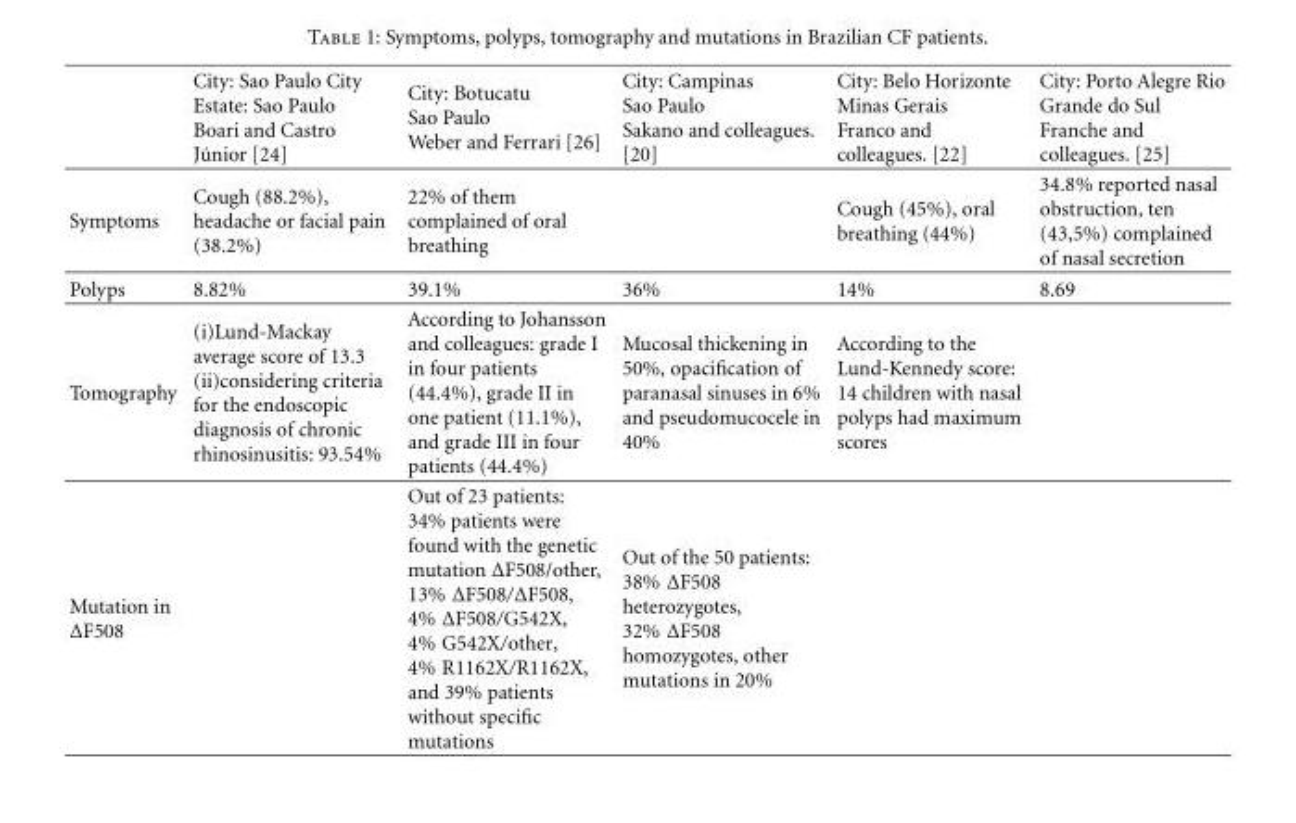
<table><thead><tr><td></td><td>City: Sao Paulo City Estate: Sao Paulo Boari and Castro J´unior [24]</td><td>City: Botucatu Sao Paulo Weber and Ferrari [26]</td><td>City: Campinas Sao Paulo Sakano and colleagues. [20]</td><td>City: Belo Horizonte Minas Gerais Franco and colleagues. [22]</td><td>City: Porto Alegre Rio Grande do Sul Franche and colleagues. [25]</td></tr></thead><tbody><tr><td>Symptoms</td><td>Cough (88.2%), headache or facial pain (38.2%)</td><td>22% of them complained of oral breathing</td><td></td><td>Cough (45%), oral breathing (44%)</td><td>34.8% reported nasal obstruction, ten (43,5%) complained of nasal secretion</td></tr><tr><td>Polyps</td><td>8.82%</td><td>39.1%</td><td>36%</td><td>14%</td><td>8.69</td></tr><tr><td>Tomography</td><td>(i)Lund-Mackay average score of 13.3 (ii)considering criteria for the endoscopic diagnosis of chronic rhinosinusitis: 93.54%</td><td>According to Johansson and colleagues: grade I in four patients (44.4%), grade II in one patient (11.1%), and grade III in four patients (44.4%)</td><td>Mucosal thickening in 50%, opacification of paranasal sinuses in 6% and pseudomucocele in 40%</td><td>According to the Lund-Kennedy score: 14 children with nasal polyps had maximum scores</td><td></td></tr><tr><td>Mutation in ΔF508</td><td></td><td>Out of 23 patients: 34% patients were found with the genetic mutation ΔF508/other, 13% ΔF508/ΔF508, 4% ΔF508/G542X, 4% G542X/other, 4% R1162X/R1162X, and 39% patients without specific mutations</td><td>Out of the 50 patients: 38% ΔF508 heterozygotes, 32% ΔF508 homozygotes, other mutations in 20%</td><td></td><td></td></tr></tbody></table>